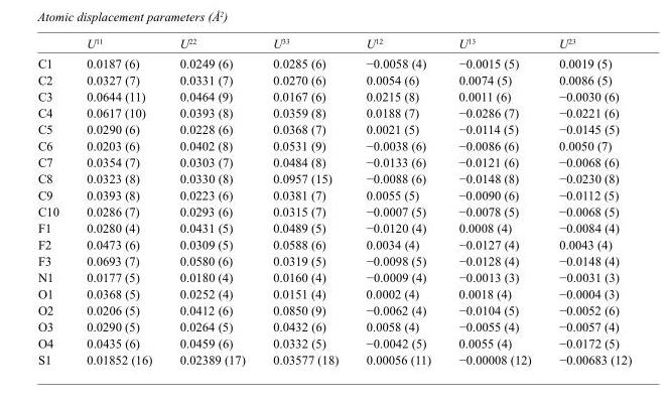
<table><thead><tr><td></td><td>U<sup>11</sup></td><td>U<sup>22</sup></td><td>U<sup>33</sup></td><td>U<sup>12</sup></td><td>U<sup>13</sup></td><td>U<sup>23</sup></td></tr></thead><tbody><tr><td>C1</td><td>0.0187 (6)</td><td>0.0249 (6)</td><td>0.0285 (6)</td><td>−0.0058 (4)</td><td>−0.0015 (5)</td><td>0.0019 (5)</td></tr><tr><td>C2</td><td>0.0327 (7)</td><td>0.0331 (7)</td><td>0.0270 (6)</td><td>0.0054 (6)</td><td>0.0074 (5)</td><td>0.0086 (5)</td></tr><tr><td>C3</td><td>0.0644 (11)</td><td>0.0464 (9)</td><td>0.0167 (6)</td><td>0.0215 (8)</td><td>0.0011 (6)</td><td>−0.0030 (6)</td></tr><tr><td>C4</td><td>0.0617 (10)</td><td>0.0393 (8)</td><td>0.0359 (8)</td><td>0.0188 (7)</td><td>−0.0286 (7)</td><td>−0.0221 (6)</td></tr><tr><td>C5</td><td>0.0290 (6)</td><td>0.0228 (6)</td><td>0.0368 (7)</td><td>0.0021 (5)</td><td>−0.0114 (5)</td><td>−0.0145 (5)</td></tr><tr><td>C6</td><td>0.0203 (6)</td><td>0.0402 (8)</td><td>0.0531 (9)</td><td>−0.0038 (6)</td><td>−0.0086 (6)</td><td>0.0050 (7)</td></tr><tr><td>C7</td><td>0.0354 (7)</td><td>0.0303 (7)</td><td>0.0484 (8)</td><td>−0.0133 (6)</td><td>−0.0121 (6)</td><td>−0.0068 (6)</td></tr><tr><td>C8</td><td>0.0323 (8)</td><td>0.0330 (8)</td><td>0.0957 (15)</td><td>−0.0088 (6)</td><td>−0.0148 (8)</td><td>−0.0230 (8)</td></tr><tr><td>C9</td><td>0.0393 (8)</td><td>0.0223 (6)</td><td>0.0381 (7)</td><td>0.0055 (5)</td><td>−0.0090 (6)</td><td>−0.0112 (5)</td></tr><tr><td>C10</td><td>0.0286 (7)</td><td>0.0293 (6)</td><td>0.0315 (7)</td><td>−0.0007 (5)</td><td>−0.0078 (5)</td><td>−0.0068 (5)</td></tr><tr><td>F1</td><td>0.0280 (4)</td><td>0.0431 (5)</td><td>0.0489 (5)</td><td>−0.0120 (4)</td><td>0.0008 (4)</td><td>−0.0084 (4)</td></tr><tr><td>F2</td><td>0.0473 (6)</td><td>0.0309 (5)</td><td>0.0588 (6)</td><td>0.0034 (4)</td><td>−0.0127 (4)</td><td>0.0043 (4)</td></tr><tr><td>F3</td><td>0.0693 (7)</td><td>0.0580 (6)</td><td>0.0319 (5)</td><td>−0.0098 (5)</td><td>−0.0128 (4)</td><td>−0.0148 (4)</td></tr><tr><td>N1</td><td>0.0177 (5)</td><td>0.0180 (4)</td><td>0.0160 (4)</td><td>−0.0009 (4)</td><td>−0.0013 (3)</td><td>−0.0031 (3)</td></tr><tr><td>O1</td><td>0.0368 (5)</td><td>0.0252 (4)</td><td>0.0151 (4)</td><td>0.0002 (4)</td><td>0.0018 (4)</td><td>−0.0004 (3)</td></tr><tr><td>O2</td><td>0.0206 (5)</td><td>0.0412 (6)</td><td>0.0850 (9)</td><td>−0.0062 (4)</td><td>−0.0104 (5)</td><td>−0.0052 (6)</td></tr><tr><td>O3</td><td>0.0290 (5)</td><td>0.0264 (5)</td><td>0.0432 (6)</td><td>0.0058 (4)</td><td>−0.0055 (4)</td><td>−0.0057 (4)</td></tr><tr><td>O4</td><td>0.0435 (6)</td><td>0.0459 (6)</td><td>0.0332 (5)</td><td>−0.0042 (5)</td><td>0.0055 (4)</td><td>−0.0172 (5)</td></tr><tr><td>S1</td><td>0.01852 (16)</td><td>0.02389 (17)</td><td>0.03577 (18)</td><td>0.00056 (11)</td><td>−0.00008 (12)</td><td>−0.00683 (12)</td></tr></tbody></table>